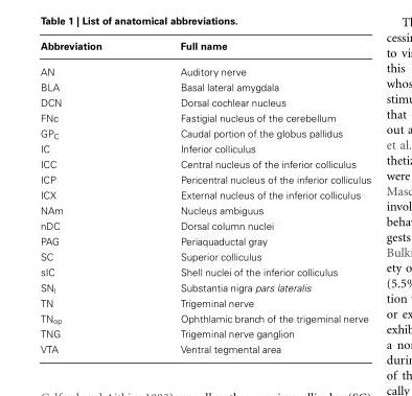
<table><thead><tr><td>Abbreviation</td><td>Full name</td></tr></thead><tbody><tr><td>AN</td><td>Auditory nerve</td></tr><tr><td>BLA</td><td>Basal lateral amygdala</td></tr><tr><td>DCN</td><td>Dorsal cochlear nucleus</td></tr><tr><td>FNc</td><td>Fastigial nucleus of the cerebellum</td></tr><tr><td>GP<sub>C</sub></td><td>Caudal portion of the globus pallidus</td></tr><tr><td>IC</td><td>Inferior colliculus</td></tr><tr><td>ICC</td><td>Central nucleus of the inferior colliculus</td></tr><tr><td>ICP</td><td>Pericentral nucleus of the inferior colliculus</td></tr><tr><td>ICX</td><td>External nucleus of the inferior colliculus</td></tr><tr><td>NAm</td><td>Nucleus ambiguus</td></tr><tr><td>nDC</td><td>Dorsal column nuclei</td></tr><tr><td>PAG</td><td>Periaquaductal gray</td></tr><tr><td>SC</td><td>Superior colliculus</td></tr><tr><td>sIC</td><td>Shell nuclei of the inferior colliculus</td></tr><tr><td>SN<sub>l</sub></td><td>Substantia nigra pars lateralis</td></tr><tr><td>TN</td><td>Trigeminal nerve</td></tr><tr><td>TN<sub>op</sub></td><td>Ophthlamic branch of the trigeminal nerve</td></tr><tr><td>TNG</td><td>Trigeminal nerve ganglion</td></tr><tr><td>VTA</td><td>Ventral tegmental area</td></tr></tbody></table>